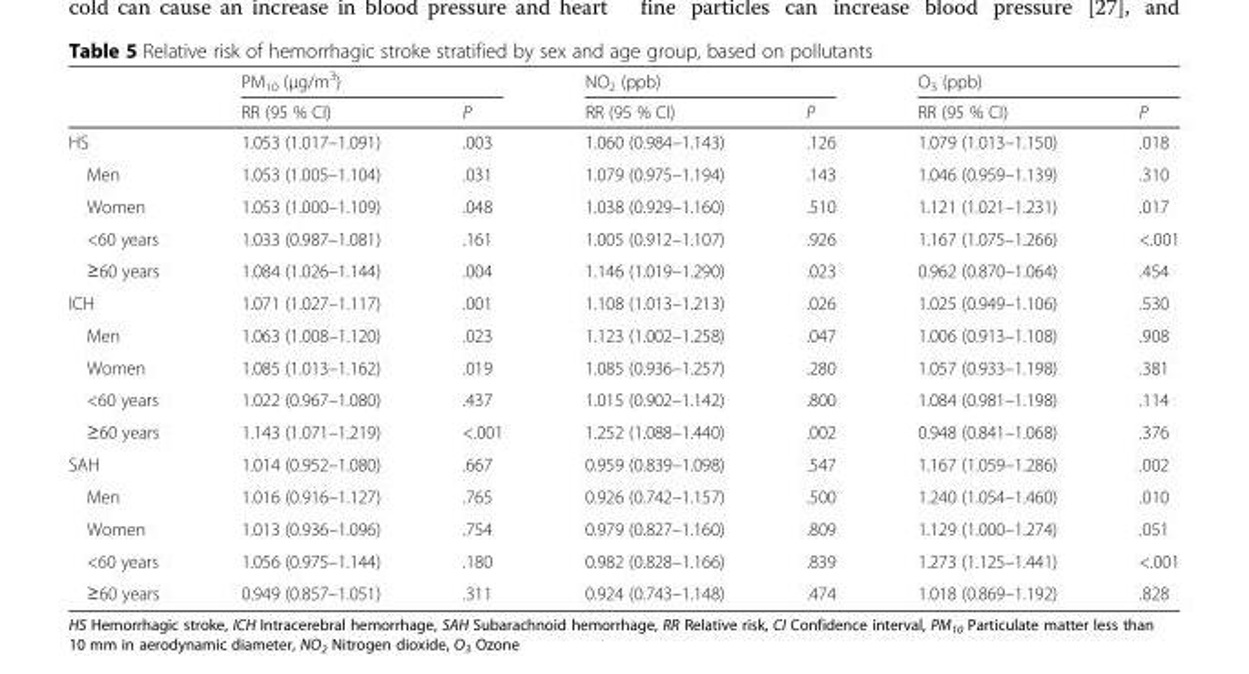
<table><thead><tr><td rowspan="2"></td><td colspan="2">PM<sub>10</sub> (μg/m<sup>3</sup>)</td><td colspan="2">NO<sub>2</sub> (ppb)</td><td colspan="2">O<sub>3</sub> (ppb)</td></tr><tr><td>RR (95 % CI)</td><td>P</td><td>RR (95 % CI)</td><td>P</td><td>RR (95 % CI)</td><td>P</td></tr></thead><tbody><tr><td>HS</td><td>1.053 (1.017–1.091)</td><td>.003</td><td>1.060 (0.984–1.143)</td><td>.126</td><td>1.079 (1.013–1.150)</td><td>.018</td></tr><tr><td>Men</td><td>1.053 (1.005–1.104)</td><td>.031</td><td>1.079 (0.975–1.194)</td><td>.143</td><td>1.046 (0.959–1.139)</td><td>.310</td></tr><tr><td>Women</td><td>1.053 (1.000–1.109)</td><td>.048</td><td>1.038 (0.929–1.160)</td><td>.510</td><td>1.121 (1.021–1.231)</td><td>.017</td></tr><tr><td>&lt;60 years</td><td>1.033 (0.987–1.081)</td><td>.161</td><td>1.005 (0.912–1.107)</td><td>.926</td><td>1.167 (1.075–1.266)</td><td>&lt;.001</td></tr><tr><td>≥60 years</td><td>1.084 (1.026–1.144)</td><td>.004</td><td>1.146 (1.019–1.290)</td><td>.023</td><td>0.962 (0.870–1.064)</td><td>.454</td></tr><tr><td>ICH</td><td>1.071 (1.027–1.117)</td><td>.001</td><td>1.108 (1.013–1.213)</td><td>.026</td><td>1.025 (0.949–1.106)</td><td>.530</td></tr><tr><td>Men</td><td>1.063 (1.008–1.120)</td><td>.023</td><td>1.123 (1.002–1.258)</td><td>.047</td><td>1.006 (0.913–1.108)</td><td>.908</td></tr><tr><td>Women</td><td>1.085 (1.013–1.162)</td><td>.019</td><td>1.085 (0.936–1.257)</td><td>.280</td><td>1.057 (0.933–1.198)</td><td>.381</td></tr><tr><td>&lt;60 years</td><td>1.022 (0.967–1.080)</td><td>.437</td><td>1.015 (0.902–1.142)</td><td>.800</td><td>1.084 (0.981–1.198)</td><td>.114</td></tr><tr><td>≥60 years</td><td>1.143 (1.071–1.219)</td><td>&lt;.001</td><td>1.252 (1.088–1.440)</td><td>.002</td><td>0.948 (0.841–1.068)</td><td>.376</td></tr><tr><td>SAH</td><td>1.014 (0.952–1.080)</td><td>.667</td><td>0.959 (0.839–1.098)</td><td>.547</td><td>1.167 (1.059–1.286)</td><td>.002</td></tr><tr><td>Men</td><td>1.016 (0.916–1.127)</td><td>.765</td><td>0.926 (0.742–1.157)</td><td>.500</td><td>1.240 (1.054–1.460)</td><td>.010</td></tr><tr><td>Women</td><td>1.013 (0.936–1.096)</td><td>.754</td><td>0.979 (0.827–1.160)</td><td>.809</td><td>1.129 (1.000–1.274)</td><td>.051</td></tr><tr><td>&lt;60 years</td><td>1.056 (0.975–1.144)</td><td>.180</td><td>0.982 (0.828–1.166)</td><td>.839</td><td>1.273 (1.125–1.441)</td><td>&lt;.001</td></tr><tr><td>≥60 years</td><td>0.949 (0.857–1.051)</td><td>.311</td><td>0.924 (0.743–1.148)</td><td>.474</td><td>1.018 (0.869–1.192)</td><td>.828</td></tr></tbody></table>